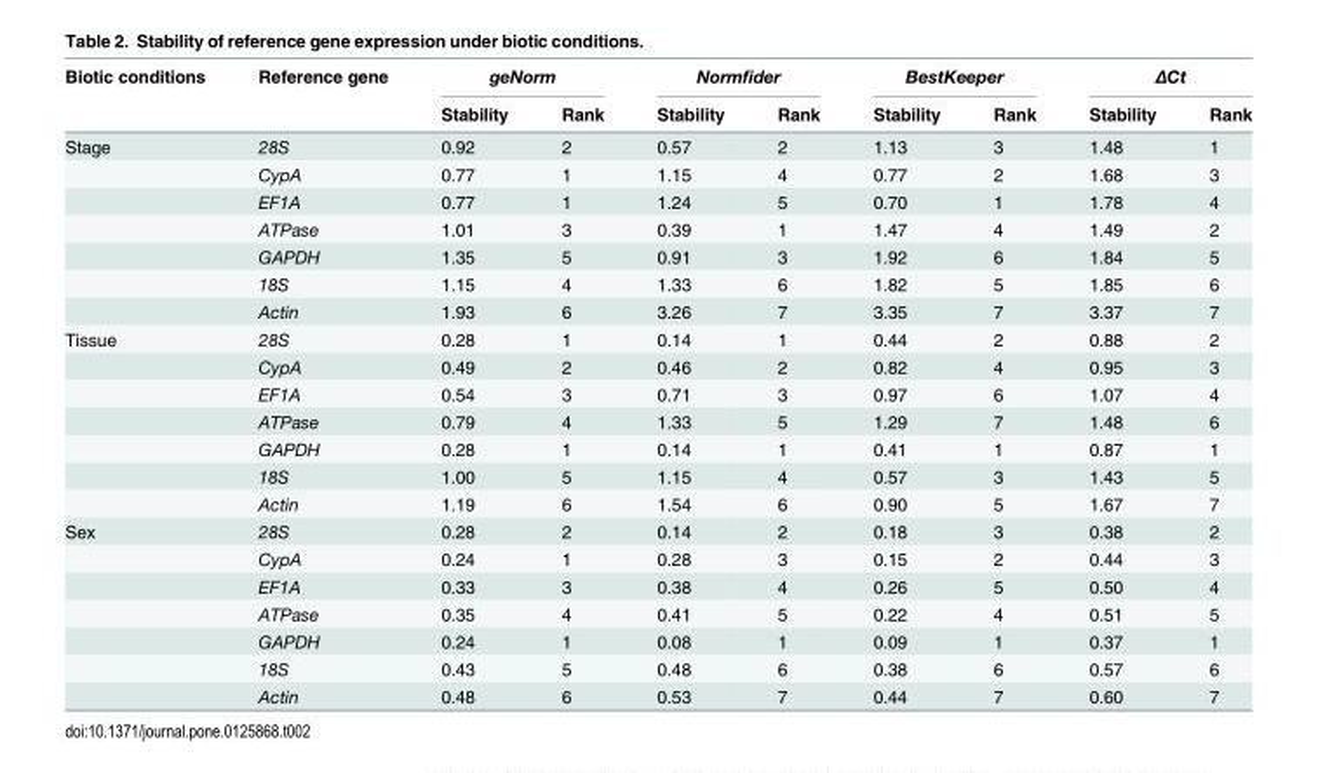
<table><thead><tr><td rowspan="2">Biotic conditions</td><td rowspan="2">Reference gene</td><td colspan="2">geNorm</td><td colspan="2">Normfider</td><td colspan="2">BestKeeper</td><td colspan="2">ΔCt</td></tr><tr><td>Stability</td><td>Rank</td><td>Stability</td><td>Rank</td><td>Stability</td><td>Rank</td><td>Stability</td><td>Rank</td></tr></thead><tbody><tr><td rowspan="7">Stage</td><td>28S</td><td>0.92</td><td>2</td><td>0.57</td><td>2</td><td>1.13</td><td>3</td><td>1.48</td><td>1</td></tr><tr><td>CypA</td><td>0.77</td><td>1</td><td>1.15</td><td>4</td><td>0.77</td><td>2</td><td>1.68</td><td>3</td></tr><tr><td>EF1A</td><td>0.77</td><td>1</td><td>1.24</td><td>5</td><td>0.70</td><td>1</td><td>1.78</td><td>4</td></tr><tr><td>ATPase</td><td>1.01</td><td>3</td><td>0.39</td><td>1</td><td>1.47</td><td>4</td><td>1.49</td><td>2</td></tr><tr><td>GAPDH</td><td>1.35</td><td>5</td><td>0.91</td><td>3</td><td>1.92</td><td>6</td><td>1.84</td><td>5</td></tr><tr><td>18S</td><td>1.15</td><td>4</td><td>1.33</td><td>6</td><td>1.82</td><td>5</td><td>1.85</td><td>6</td></tr><tr><td>Actin</td><td>1.93</td><td>6</td><td>3.26</td><td>7</td><td>3.35</td><td>7</td><td>3.37</td><td>7</td></tr><tr><td rowspan="7">Tissue</td><td>28S</td><td>0.28</td><td>1</td><td>0.14</td><td>1</td><td>0.44</td><td>2</td><td>0.88</td><td>2</td></tr><tr><td>CypA</td><td>0.49</td><td>2</td><td>0.46</td><td>2</td><td>0.82</td><td>4</td><td>0.95</td><td>3</td></tr><tr><td>EF1A</td><td>0.54</td><td>3</td><td>0.71</td><td>3</td><td>0.97</td><td>6</td><td>1.07</td><td>4</td></tr><tr><td>ATPase</td><td>0.79</td><td>4</td><td>1.33</td><td>5</td><td>1.29</td><td>7</td><td>1.48</td><td>6</td></tr><tr><td>GAPDH</td><td>0.28</td><td>1</td><td>0.14</td><td>1</td><td>0.41</td><td>1</td><td>0.87</td><td>1</td></tr><tr><td>18S</td><td>1.00</td><td>5</td><td>1.15</td><td>4</td><td>0.57</td><td>3</td><td>1.43</td><td>5</td></tr><tr><td>Actin</td><td>1.19</td><td>6</td><td>1.54</td><td>6</td><td>0.90</td><td>5</td><td>1.67</td><td>7</td></tr><tr><td rowspan="7">Sex</td><td>28S</td><td>0.28</td><td>2</td><td>0.14</td><td>2</td><td>0.18</td><td>3</td><td>0.38</td><td>2</td></tr><tr><td>CypA</td><td>0.24</td><td>1</td><td>0.28</td><td>3</td><td>0.15</td><td>2</td><td>0.44</td><td>3</td></tr><tr><td>EF1A</td><td>0.33</td><td>3</td><td>0.38</td><td>4</td><td>0.26</td><td>5</td><td>0.50</td><td>4</td></tr><tr><td>ATPase</td><td>0.35</td><td>4</td><td>0.41</td><td>5</td><td>0.22</td><td>4</td><td>0.51</td><td>5</td></tr><tr><td>GAPDH</td><td>0.24</td><td>1</td><td>0.08</td><td>1</td><td>0.09</td><td>1</td><td>0.37</td><td>1</td></tr><tr><td>18S</td><td>0.43</td><td>5</td><td>0.48</td><td>6</td><td>0.38</td><td>6</td><td>0.57</td><td>6</td></tr><tr><td>Actin</td><td>0.48</td><td>6</td><td>0.53</td><td>7</td><td>0.44</td><td>7</td><td>0.60</td><td>7</td></tr></tbody></table>